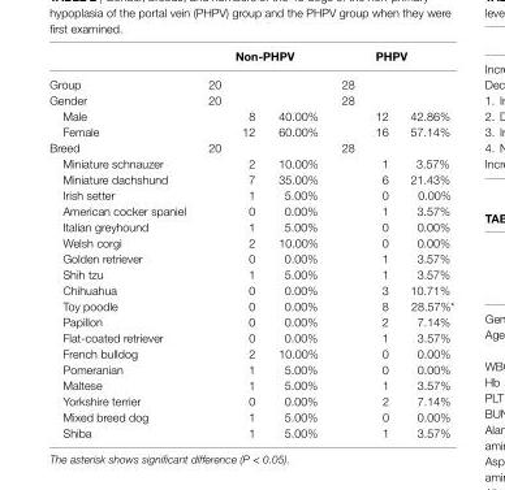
<table><thead><tr><td rowspan="2">Group</td><td colspan="3">non-PhPV</td><td colspan="3">PhPV</td></tr><tr><td>20</td><td></td><td></td><td>28</td><td></td><td></td></tr></thead><tbody><tr><td>Gender</td><td>20</td><td></td><td></td><td>28</td><td></td><td></td></tr><tr><td>Male</td><td></td><td>8</td><td>40.00%</td><td></td><td>12</td><td>42.86%</td></tr><tr><td>Female</td><td></td><td>12</td><td>60.00%</td><td></td><td>16</td><td>57.14%</td></tr><tr><td>Breed</td><td>20</td><td></td><td></td><td>28</td><td></td><td></td></tr><tr><td>Miniature schnauzer</td><td></td><td>2</td><td>10.00%</td><td></td><td>1</td><td>3.57%</td></tr><tr><td>Miniature dachshund</td><td></td><td>7</td><td>35.00%</td><td></td><td>6</td><td>21.43%</td></tr><tr><td>Irish setter</td><td></td><td>1</td><td>5.00%</td><td></td><td>0</td><td>0.00%</td></tr><tr><td>American cocker spaniel</td><td></td><td>0</td><td>0.00%</td><td></td><td>1</td><td>3.57%</td></tr><tr><td>Italian greyhound</td><td></td><td>1</td><td>5.00%</td><td></td><td>0</td><td>0.00%</td></tr><tr><td>Welsh corgi</td><td></td><td>2</td><td>10.00%</td><td></td><td>0</td><td>0.00%</td></tr><tr><td>Golden retriever</td><td></td><td>0</td><td>0.00%</td><td></td><td>1</td><td>3.57%</td></tr><tr><td>Shih tzu</td><td></td><td>1</td><td>5.00%</td><td></td><td>1</td><td>3.57%</td></tr><tr><td>Chihuahua</td><td></td><td>0</td><td>0.00%</td><td></td><td>3</td><td>10.71%</td></tr><tr><td>Toy poodle</td><td></td><td>0</td><td>0.00%</td><td></td><td>8</td><td>28.57%*</td></tr><tr><td>Papillon</td><td></td><td>0</td><td>0.00%</td><td></td><td>2</td><td>7.14%</td></tr><tr><td>Flat-coated retriever</td><td></td><td>0</td><td>0.00%</td><td></td><td>1</td><td>3.57%</td></tr><tr><td>French bulldog</td><td></td><td>2</td><td>10.00%</td><td></td><td>0</td><td>0.00%</td></tr><tr><td>Pomeranian</td><td></td><td>1</td><td>5.00%</td><td></td><td>0</td><td>0.00%</td></tr><tr><td>Maltese</td><td></td><td>1</td><td>5.00%</td><td></td><td>1</td><td>3.57%</td></tr><tr><td>Yorkshire terrier</td><td></td><td>0</td><td>0.00%</td><td></td><td>2</td><td>7.14%</td></tr><tr><td>Mixed breed dog</td><td></td><td>1</td><td>5.00%</td><td></td><td>0</td><td>0.00%</td></tr><tr><td>Shiba</td><td></td><td>1</td><td>5.00%</td><td></td><td>1</td><td>3.57%</td></tr></tbody></table>